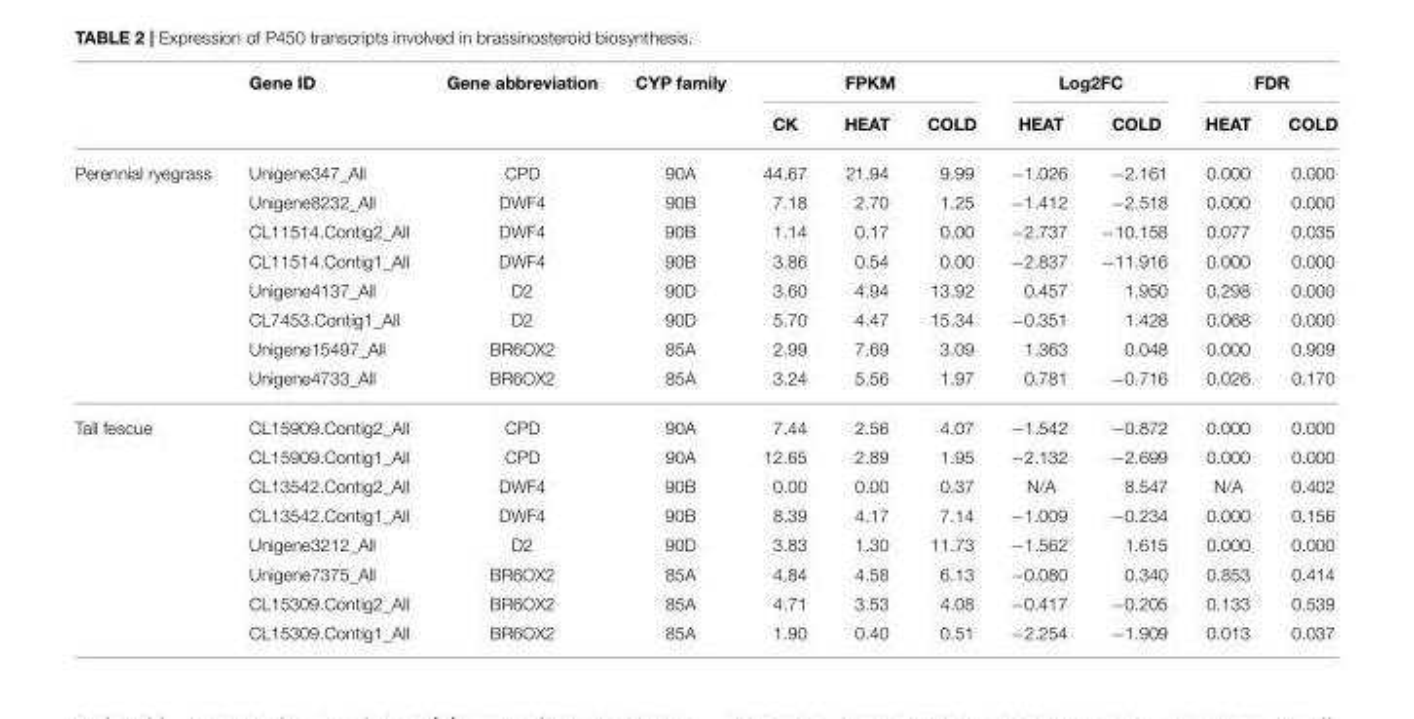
<table><thead><tr><td rowspan="2"></td><td rowspan="2">Gene ID</td><td rowspan="2">Gene abbreviation</td><td rowspan="2">CYP family</td><td colspan="3">FPKM</td><td colspan="2">Log2FC</td><td colspan="2">FDR</td></tr><tr><td>CK</td><td>HEAT</td><td>COLD</td><td>HEAT</td><td>COLD</td><td>HEAT</td><td>COLD</td></tr></thead><tbody><tr><td rowspan="8">Perennial ryegrass</td><td>Unigene347_All</td><td>CPD</td><td>90A</td><td>44.67</td><td>21.94</td><td>9.99</td><td>−1.026</td><td>−2.161</td><td>0.000</td><td>0.000</td></tr><tr><td>Unigene8232_All</td><td>DWF4</td><td>90B</td><td>7.18</td><td>2.70</td><td>1.25</td><td>−1.412</td><td>−2.518</td><td>0.000</td><td>0.000</td></tr><tr><td>CL11514.Contig2_All</td><td>DWF4</td><td>90B</td><td>1.14</td><td>0.17</td><td>0.00</td><td>−2.737</td><td>−10.158</td><td>0.077</td><td>0.035</td></tr><tr><td>CL11514.Contig1_All</td><td>DWF4</td><td>90B</td><td>3.86</td><td>0.54</td><td>0.00</td><td>−2.837</td><td>−11.916</td><td>0.000</td><td>0.000</td></tr><tr><td>Unigene4137_All</td><td>D2</td><td>90D</td><td>3.60</td><td>4.94</td><td>13.92</td><td>0.457</td><td>1.950</td><td>0.298</td><td>0.000</td></tr><tr><td>CL7453.Contig1_All</td><td>D2</td><td>90D</td><td>5.70</td><td>4.47</td><td>15.34</td><td>−0.351</td><td>1.428</td><td>0.068</td><td>0.000</td></tr><tr><td>Unigene15497_All</td><td>BR6OX2</td><td>85A</td><td>2.99</td><td>7.69</td><td>3.09</td><td>1.363</td><td>0.048</td><td>0.000</td><td>0.909</td></tr><tr><td>Unigene4733_All</td><td>BR6OX2</td><td>85A</td><td>3.24</td><td>5.56</td><td>1.97</td><td>0.781</td><td>−0.716</td><td>0.026</td><td>0.170</td></tr><tr><td rowspan="8">Tall fescue</td><td>CL15909.Contig2_All</td><td>CPD</td><td>90A</td><td>7.44</td><td>2.56</td><td>4.07</td><td>−1.542</td><td>−0.872</td><td>0.000</td><td>0.000</td></tr><tr><td>CL15909.Contig1_All</td><td>CPD</td><td>90A</td><td>12.65</td><td>2.89</td><td>1.95</td><td>−2.132</td><td>−2.699</td><td>0.000</td><td>0.000</td></tr><tr><td>CL13542.Contig2_All</td><td>DWF4</td><td>90B</td><td>0.00</td><td>0.00</td><td>0.37</td><td>N/A</td><td>8.547</td><td>N/A</td><td>0.402</td></tr><tr><td>CL13542.Contig1_All</td><td>DWF4</td><td>90B</td><td>8.39</td><td>4.17</td><td>7.14</td><td>−1.009</td><td>−0.234</td><td>0.000</td><td>0.156</td></tr><tr><td>Unigene3212_All</td><td>D2</td><td>90D</td><td>3.83</td><td>1.30</td><td>11.73</td><td>−1.562</td><td>1.615</td><td>0.000</td><td>0.000</td></tr><tr><td>Unigene7375_All</td><td>BR6OX2</td><td>85A</td><td>4.84</td><td>4.58</td><td>6.13</td><td>−0.080</td><td>0.340</td><td>0.853</td><td>0.414</td></tr><tr><td>CL15309.Contig2_All</td><td>BR6OX2</td><td>85A</td><td>4.71</td><td>3.53</td><td>4.08</td><td>−0.417</td><td>−0.205</td><td>0.133</td><td>0.539</td></tr><tr><td>CL15309.Contig1_All</td><td>BR6OX2</td><td>85A</td><td>1.90</td><td>0.40</td><td>0.51</td><td>−2.254</td><td>−1.909</td><td>0.013</td><td>0.037</td></tr></tbody></table>